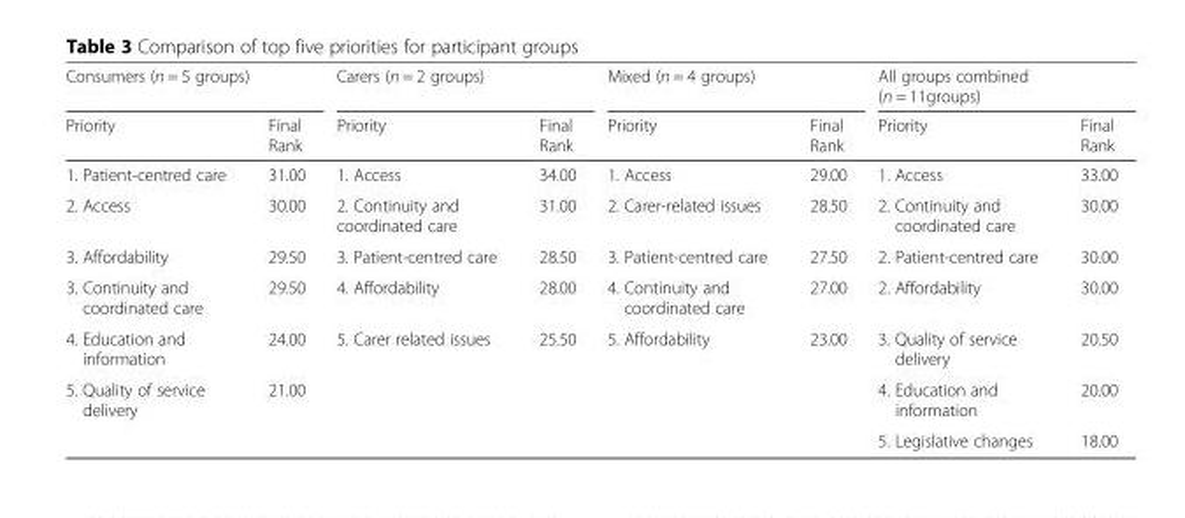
<table><thead><tr><td colspan="2">Consumers (n = 5 groups)</td><td colspan="2">Carers (n = 2 groups)</td><td colspan="2">Mixed (n = 4 groups)</td><td colspan="2">All groups combined (n = 11groups)</td></tr><tr><td>Priority</td><td>Final Rank</td><td>Priority</td><td>Final Rank</td><td>Priority</td><td>Final Rank</td><td>Priority</td><td>Final Rank</td></tr></thead><tbody><tr><td>1. Patient-centred care</td><td>31.00</td><td>1. Access</td><td>34.00</td><td>1. Access</td><td>29.00</td><td>1. Access</td><td>33.00</td></tr><tr><td>2. Access</td><td>30.00</td><td>2. Continuity and coordinated care</td><td>31.00</td><td>2. Carer-related issues</td><td>28.50</td><td>2. Continuity and coordinated care</td><td>30.00</td></tr><tr><td>3. Affordability</td><td>29.50</td><td>3. Patient-centred care</td><td>28.50</td><td>3. Patient-centred care</td><td>27.50</td><td>2. Patient-centred care</td><td>30.00</td></tr><tr><td>3. Continuity and coordinated care</td><td>29.50</td><td>4. Affordability</td><td>28.00</td><td>4. Continuity and coordinated care</td><td>27.00</td><td>2. Affordability</td><td>30.00</td></tr><tr><td>4. Education and information</td><td>24.00</td><td>5. Carer related issues</td><td>25.50</td><td>5. Affordability</td><td>23.00</td><td>3. Quality of service delivery</td><td>20.50</td></tr><tr><td rowspan="2">5. Quality of service delivery</td><td rowspan="2">21.00</td><td rowspan="2"></td><td rowspan="2"></td><td rowspan="2"></td><td rowspan="2"></td><td>4. Education and information</td><td>20.00</td></tr><tr><td>5. Legislative changes</td><td>18.00</td></tr></tbody></table>